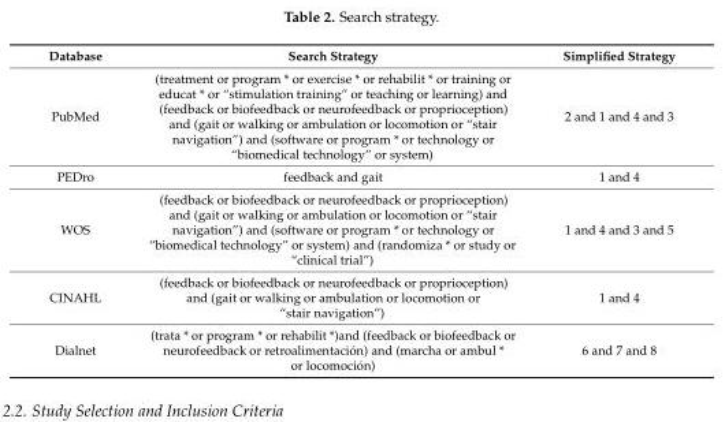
<table><thead><tr><td>Database</td><td>Search Strategy</td><td>Simplified Strategy</td></tr></thead><tbody><tr><td>PubMed</td><td>(treatment or program * or exercise * or rehabilit * or training or educat * or “stimulation training” or teaching or learning) and (feedback or biofeedback or neurofeedback or proprioception) and (gait or walking or ambulation or locomotion or “stair navigation”) and (software or program * or technology or “biomedical technology” or system)</td><td>2 and 1 and 4 and 3</td></tr><tr><td>PEDro</td><td>feedback and gait</td><td>1 and 4</td></tr><tr><td>WOS</td><td>(feedback or biofeedback or neurofeedback or proprioception) and (gait or walking or ambulation or locomotion or “stair navigation”) and (software or program * or technology or “biomedical technology” or system) and (randomiza * or study or “clinical trial”)</td><td>1 and 4 and 3 and 5</td></tr><tr><td>CINAHL</td><td>(feedback or biofeedback or neurofeedback or proprioception) and (gait or walking or ambulation or locomotion or “stair navigation”)</td><td>1 and 4</td></tr><tr><td>Dialnet</td><td>(trata * or program * or rehabilit *)and (feedback or biofeedback or neurofeedback or retroalimentación) and (marcha or ambul * or locomoción)</td><td>6 and 7 and 8</td></tr></tbody></table>